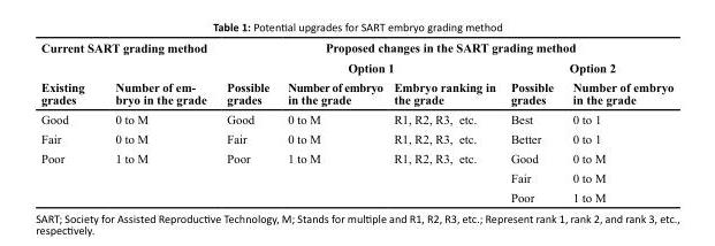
<table><thead><tr><td colspan="2">Current SART grading method</td><td colspan="5">Proposed changes in the SART grading method</td></tr><tr><td rowspan="2">Existing grades</td><td rowspan="2">Number of em- bryo in the grade</td><td colspan="3">Option 1</td><td colspan="2">Option 2</td></tr><tr><td>Possible grades</td><td>Number of embryo in the grade</td><td>Embryo ranking in the grade</td><td>Possible grades</td><td>Number of embryo in the grade</td></tr></thead><tbody><tr><td>Good</td><td>0 to M</td><td>Good</td><td>0 to M</td><td>R1, R2, R3, etc.</td><td>Best</td><td>0 to 1</td></tr><tr><td>Fair</td><td>0 to M</td><td>Fair</td><td>0 to M</td><td>R1, R2, R3, etc.</td><td>Better</td><td>0 to 1</td></tr><tr><td rowspan="3">Poor</td><td>1 to M</td><td>Poor</td><td>1 to M</td><td>R1, R2, R3, etc.</td><td>Good</td><td>0 to M</td></tr><tr><td></td><td></td><td></td><td></td><td>Fair</td><td>0 to M</td></tr><tr><td></td><td></td><td></td><td></td><td>Poor</td><td>1 to M</td></tr></tbody></table>